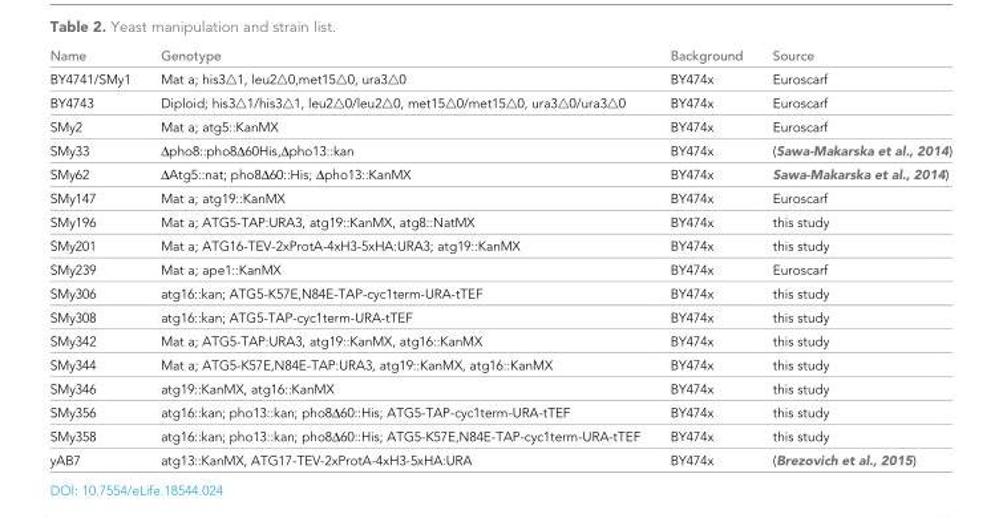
<table><thead><tr><td>Name</td><td>Genotype</td><td>Background</td><td>Source</td></tr></thead><tbody><tr><td>BY4741/SMy1</td><td>Mat a; his3△1, leu2△0,met15△0, ura3△0</td><td>BY474x</td><td>Euroscarf</td></tr><tr><td>BY4743</td><td>Diploid; his3△1/his3△1, leu2△0/leu2△0, met15△0/met15△0, ura3△0/ura3△0</td><td>BY474x</td><td>Euroscarf</td></tr><tr><td>SMy2</td><td>Mat a; atg5::KanMX</td><td>BY474x</td><td>Euroscarf</td></tr><tr><td>SMy33</td><td>∆pho8::pho8∆60His,∆pho13::kan</td><td>BY474x</td><td>(Sawa-Makarska et al., 2014)</td></tr><tr><td>SMy62</td><td>∆Atg5::nat; pho8∆60::His; ∆pho13::KanMX</td><td>BY474x</td><td>Sawa-Makarska et al., 2014)</td></tr><tr><td>SMy147</td><td>Mat a; atg19::KanMX</td><td>BY474x</td><td>Euroscarf</td></tr><tr><td>SMy196</td><td>Mat a; ATG5-TAP:URA3, atg19::KanMX, atg8::NatMX</td><td>BY474x</td><td>this study</td></tr><tr><td>SMy201</td><td>Mat a; ATG16-TEV-2xProtA-4xH3-5xHA:URA3; atg19::KanMX</td><td>BY474x</td><td>this study</td></tr><tr><td>SMy239</td><td>Mat a; ape1::KanMX</td><td>BY474x</td><td>Euroscarf</td></tr><tr><td>SMy306</td><td>atg16::kan; ATG5-K57E,N84E-TAP-cyc1term-URA-tTEF</td><td>BY474x</td><td>this study</td></tr><tr><td>SMy308</td><td>atg16::kan; ATG5-TAP-cyc1term-URA-tTEF</td><td>BY474x</td><td>this study</td></tr><tr><td>SMy342</td><td>Mat a; ATG5-TAP:URA3, atg19::KanMX, atg16::KanMX</td><td>BY474x</td><td>this study</td></tr><tr><td>SMy344</td><td>Mat a; ATG5-K57E,N84E-TAP:URA3, atg19::KanMX, atg16::KanMX</td><td>BY474x</td><td>this study</td></tr><tr><td>SMy346</td><td>atg19::KanMX, atg16::KanMX</td><td>BY474x</td><td>this study</td></tr><tr><td>SMy356</td><td>atg16::kan; pho13::kan; pho8∆60::His; ATG5-TAP-cyc1term-URA-tTEF</td><td>BY474x</td><td>this study</td></tr><tr><td>SMy358</td><td>atg16::kan; pho13::kan; pho8∆60::His; ATG5-K57E,N84E-TAP-cyc1term-URA-tTEF</td><td>BY474x</td><td>this study</td></tr><tr><td>yAB7</td><td>atg13::KanMX, ATG17-TEV-2xProtA-4xH3-5xHA:URA</td><td>BY474x</td><td>(Brezovich et al., 2015)</td></tr></tbody></table>